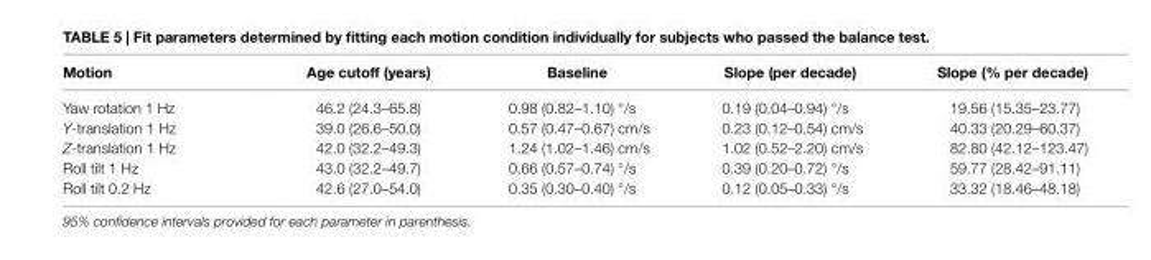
<table><thead><tr><td>Motion</td><td>age cutoff (years)</td><td>Baseline</td><td>slope (per decade)</td><td>slope (% per decade)</td></tr></thead><tbody><tr><td>Yaw rotation 1 Hz</td><td>46.2 (24.3–65.8)</td><td>0.98 (0.82–1.10) °/s</td><td>0.19 (0.04–0.94) °/s</td><td>19.56 (15.35–23.77)</td></tr><tr><td>Y-translation 1 Hz</td><td>39.0 (26.6–50.0)</td><td>0.57 (0.47–0.67) cm/s</td><td>0.23 (0.12–0.54) cm/s</td><td>40.33 (20.29–60.37)</td></tr><tr><td>Z-translation 1 Hz</td><td>42.0 (32.2–49.3)</td><td>1.24 (1.02–1.46) cm/s</td><td>1.02 (0.52–2.20) cm/s</td><td>82.80 (42.12–123.47)</td></tr><tr><td>Roll tilt 1 Hz</td><td>43.0 (32.2–49.7)</td><td>0.66 (0.57–0.74) °/s</td><td>0.39 (0.20–0.72) °/s</td><td>59.77 (28.42–91.11)</td></tr><tr><td>Roll tilt 0.2 Hz</td><td>42.6 (27.0–54.0)</td><td>0.35 (0.30–0.40) °/s</td><td>0.12 (0.05–0.33) °/s</td><td>33.32 (18.46–48.18)</td></tr></tbody></table>